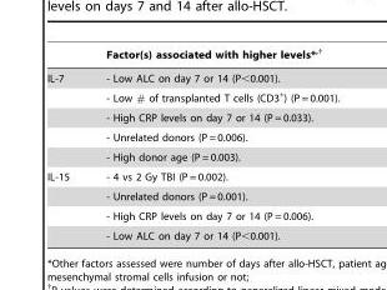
<table><thead><tr><td></td><td>Factor(s) associated with higher levels*<sup>,</sup>†</td></tr></thead><tbody><tr><td rowspan="5">IL-7</td><td>- Low ALC on day 7 or 14 (P&lt;0.001).</td></tr><tr><td>- Low # of transplanted T cells (CD3<sup>+</sup>) (P = 0.001).</td></tr><tr><td>- High CRP levels on day 7 or 14 (P = 0.033).</td></tr><tr><td>- Unrelated donors (P = 0.006).</td></tr><tr><td>- High donor age (P = 0.003).</td></tr><tr><td rowspan="4">IL-15</td><td>- 4 vs 2 Gy TBI (P = 0.002).</td></tr><tr><td>- Unrelated donors (P = 0.001).</td></tr><tr><td>- High CRP levels on day 7 or 14 (P = 0.006).</td></tr><tr><td>- Low ALC on day 7 or 14 (P&lt;0.001).</td></tr></tbody></table>